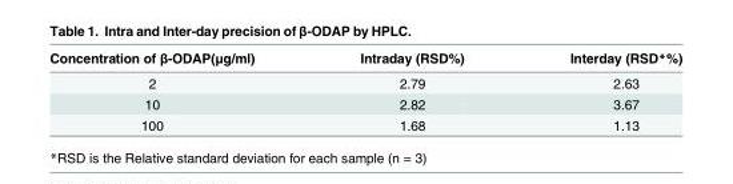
<table><thead><tr><td>Concentration of β-ODAP(μg/ml)</td><td>Intraday (RSD%)</td><td>Interday (RSD*%)</td></tr></thead><tbody><tr><td>2</td><td>2.79</td><td>2.63</td></tr><tr><td>10</td><td>2.82</td><td>3.67</td></tr><tr><td>100</td><td>1.68</td><td>1.13</td></tr></tbody></table>